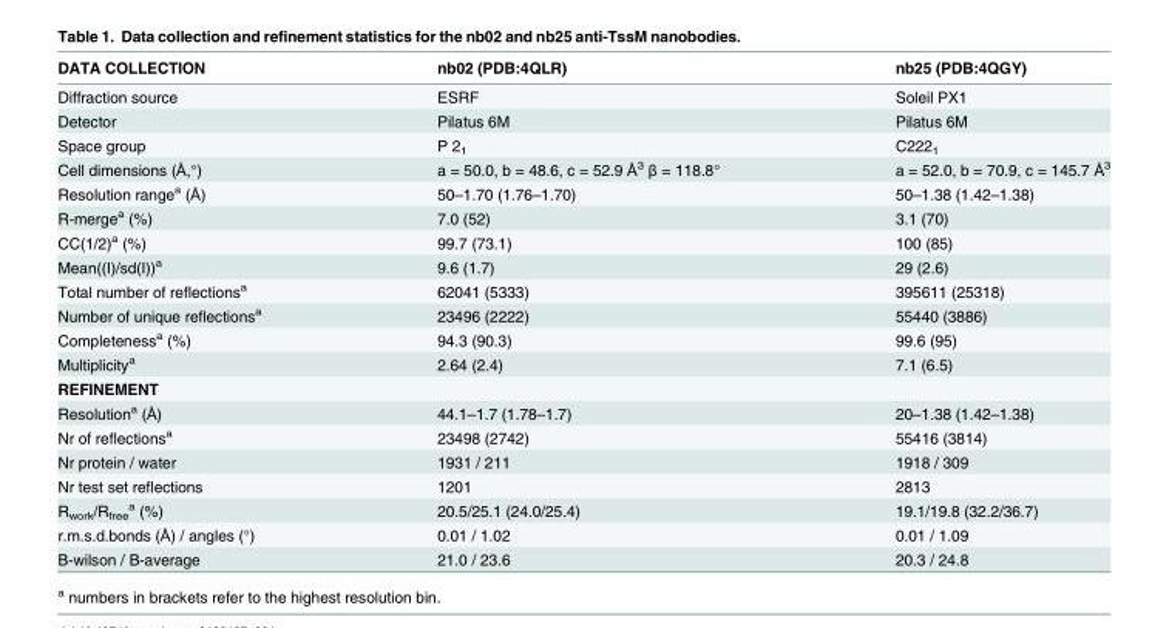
<table><thead><tr><td>DATA COLLECTION</td><td>nb02 (PDB:4QLR)</td><td>nb25 (PDB:4QGY)</td></tr></thead><tbody><tr><td>Diffraction source</td><td>ESRF</td><td>Soleil PX1</td></tr><tr><td>Detector</td><td>Pilatus 6M</td><td>Pilatus 6M</td></tr><tr><td>Space group</td><td>P 2<sub>1</sub></td><td>C222<sub>1</sub></td></tr><tr><td>Cell dimensions (Å,°)</td><td>a = 50.0, b = 48.6, c = 52.9 Å<sup>3</sup> β = 118.8°</td><td>a = 52.0, b = 70.9, c = 145.7 Å<sup>3</sup></td></tr><tr><td>Resolution range<sup>a</sup> (Å)</td><td>50–1.70 (1.76–1.70)</td><td>50–1.38 (1.42–1.38)</td></tr><tr><td>R-merge<sup>a</sup> (%)</td><td>7.0 (52)</td><td>3.1 (70)</td></tr><tr><td>CC(1/2)<sup>a</sup> (%)</td><td>99.7 (73.1)</td><td>100 (85)</td></tr><tr><td>Mean((I)/sd(I))<sup>a</sup></td><td>9.6 (1.7)</td><td>29 (2.6)</td></tr><tr><td>Total number of reflections<sup>a</sup></td><td>62041 (5333)</td><td>395611 (25318)</td></tr><tr><td>Number of unique reflections<sup>a</sup></td><td>23496 (2222)</td><td>55440 (3886)</td></tr><tr><td>Completeness<sup>a</sup> (%)</td><td>94.3 (90.3)</td><td>99.6 (95)</td></tr><tr><td>Multiplicity<sup>a</sup></td><td>2.64 (2.4)</td><td>7.1 (6.5)</td></tr><tr><td colspan="3">REFINEMENT</td></tr><tr><td>Resolution<sup>a</sup> (Å)</td><td>44.1–1.7 (1.78–1.7)</td><td>20–1.38 (1.42–1.38)</td></tr><tr><td>Nr of reflections<sup>a</sup></td><td>23498 (2742)</td><td>55416 (3814)</td></tr><tr><td>Nr protein / water</td><td>1931 / 211</td><td>1918 / 309</td></tr><tr><td>Nr test set reflections</td><td>1201</td><td>2813</td></tr><tr><td>R<sub>work</sub>/R<sub>free</sub> <sup>a</sup> (%)</td><td>20.5/25.1 (24.0/25.4)</td><td>19.1/19.8 (32.2/36.7)</td></tr><tr><td>r.m.s.d.bonds (Å) / angles (°)</td><td>0.01 / 1.02</td><td>0.01 / 1.09</td></tr><tr><td>B-wilson / B-average</td><td>21.0 / 23.6</td><td>20.3 / 24.8</td></tr></tbody></table>